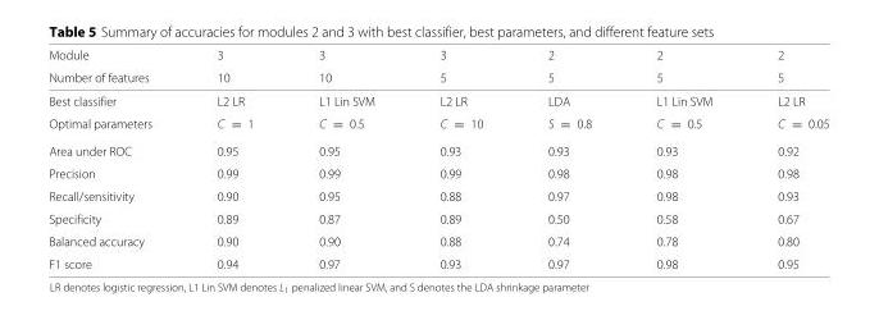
<table><thead><tr><td rowspan="2">Module Number of features</td><td rowspan="2">3 10</td><td rowspan="2">3 10</td><td rowspan="2">3 5</td><td rowspan="2">2 5</td><td rowspan="2">2 5</td><td rowspan="2">2 5</td></tr><tr></tr></thead><tbody><tr><td>Best classifier</td><td>L2 LR</td><td>L1 Lin SVM</td><td>L2 LR</td><td>LDA</td><td>L1 Lin SVM</td><td>L2 LR</td></tr><tr><td>Optimal parameters</td><td>C = 1</td><td>C = 0.5</td><td>C = 10</td><td>S = 0.8</td><td>C = 0.5</td><td>C = 0.05</td></tr><tr><td>Area under ROC</td><td>0.95</td><td>0.95</td><td>0.93</td><td>0.93</td><td>0.93</td><td>0.92</td></tr><tr><td>Precision</td><td>0.99</td><td>0.99</td><td>0.99</td><td>0.98</td><td>0.98</td><td>0.98</td></tr><tr><td>Recall/sensitivity</td><td>0.90</td><td>0.95</td><td>0.88</td><td>0.97</td><td>0.98</td><td>0.93</td></tr><tr><td>Specificity</td><td>0.89</td><td>0.87</td><td>0.89</td><td>0.50</td><td>0.58</td><td>0.67</td></tr><tr><td>Balanced accuracy</td><td>0.90</td><td>0.90</td><td>0.88</td><td>0.74</td><td>0.78</td><td>0.80</td></tr><tr><td>F1 score</td><td>0.94</td><td>0.97</td><td>0.93</td><td>0.97</td><td>0.98</td><td>0.95</td></tr></tbody></table>